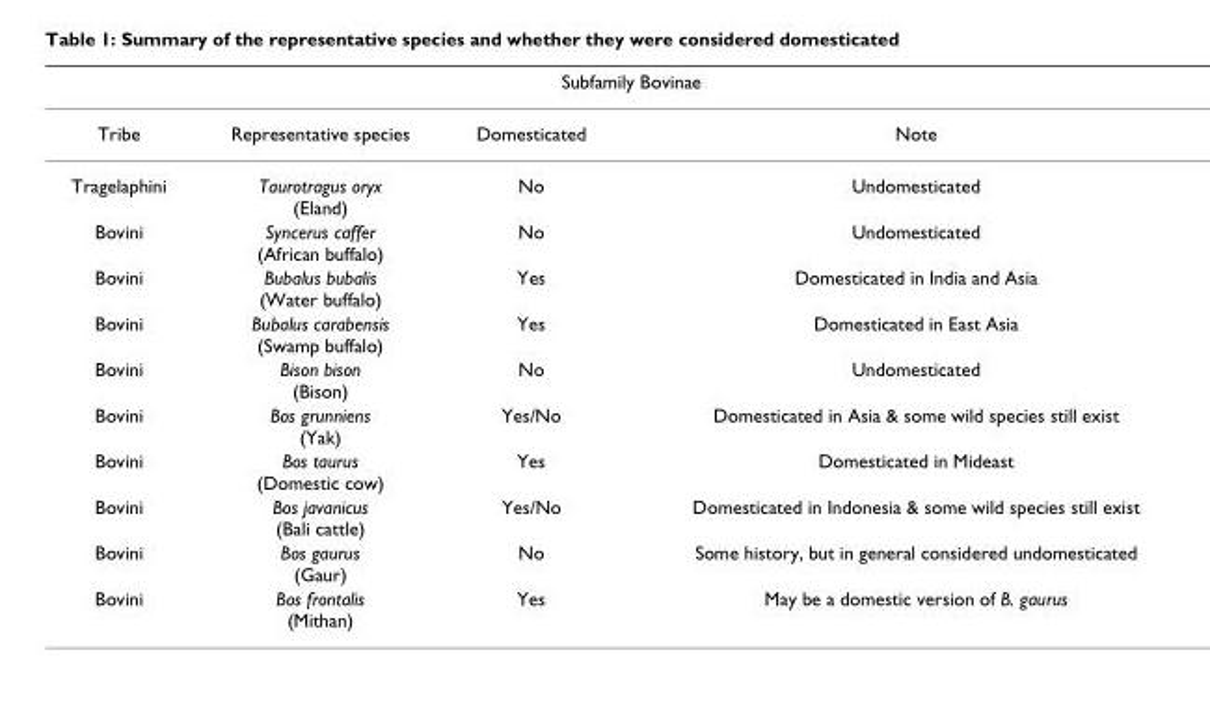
<table><thead><tr><td colspan="4">Subfamily Bovinae</td></tr><tr><td>Tribe</td><td>Representative species</td><td>Domesticated</td><td>Note</td></tr></thead><tbody><tr><td>Tragelaphini</td><td>Taurotragus oryx (Eland)</td><td>No</td><td>Undomesticated</td></tr><tr><td>Bovini</td><td>Syncerus caffer (African buffalo)</td><td>No</td><td>Undomesticated</td></tr><tr><td>Bovini</td><td>Bubalus bubalis (Water buffalo)</td><td>Yes</td><td>Domesticated in India and Asia</td></tr><tr><td>Bovini</td><td>Bubalus carabensis (Swamp buffalo)</td><td>Yes</td><td>Domesticated in East Asia</td></tr><tr><td>Bovini</td><td>Bison bison (Bison)</td><td>No</td><td>Undomesticated</td></tr><tr><td>Bovini</td><td>Bos grunniens (Yak)</td><td>Yes/No</td><td>Domesticated in Asia &amp; some wild species still exist</td></tr><tr><td>Bovini</td><td>Bos taurus (Domestic cow)</td><td>Yes</td><td>Domesticated in Mideast</td></tr><tr><td>Bovini</td><td>Bos javanicus (Bali cattle)</td><td>Yes/No</td><td>Domesticated in Indonesia &amp; some wild species still exist</td></tr><tr><td>Bovini</td><td>Bos gaurus (Gaur)</td><td>No</td><td>Some history, but in general considered undomesticated</td></tr><tr><td>Bovini</td><td>Bos frontalis (Mithan)</td><td>Yes</td><td>May be a domestic version of B. gaurus</td></tr></tbody></table>